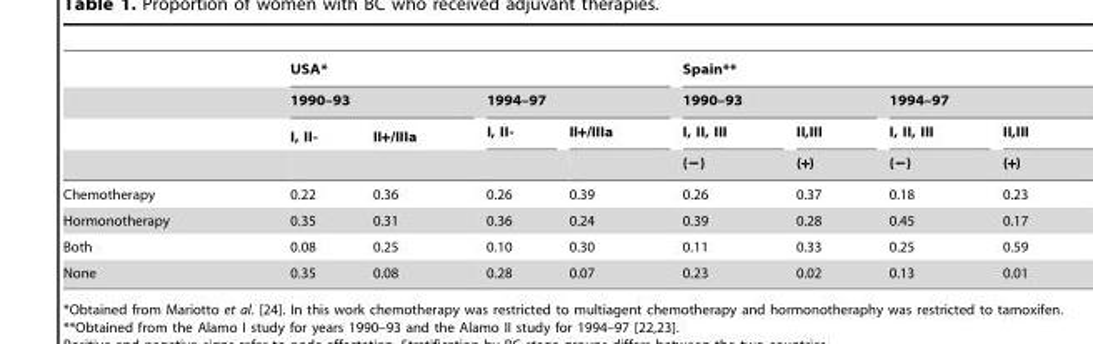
<table><thead><tr><td rowspan="4"></td><td colspan="4">USA*</td><td colspan="4">Spain**</td></tr><tr><td colspan="2">1990–93</td><td colspan="2">1994–97</td><td colspan="2">1990–93</td><td colspan="2">1994–97</td></tr><tr><td rowspan="2">I, II-</td><td rowspan="2">II+/IIIa</td><td rowspan="2">I, II-</td><td rowspan="2">II+/IIIa</td><td rowspan="2">I, II, III (−)</td><td rowspan="2">II,III (+)</td><td rowspan="2">I, II, III (−)</td><td rowspan="2">II,III (+)</td></tr><tr></tr></thead><tbody><tr><td>Chemotherapy</td><td>0.22</td><td>0.36</td><td>0.26</td><td>0.39</td><td>0.26</td><td>0.37</td><td>0.18</td><td>0.23</td></tr><tr><td>Hormonotherapy</td><td>0.35</td><td>0.31</td><td>0.36</td><td>0.24</td><td>0.39</td><td>0.28</td><td>0.45</td><td>0.17</td></tr><tr><td>Both</td><td>0.08</td><td>0.25</td><td>0.10</td><td>0.30</td><td>0.11</td><td>0.33</td><td>0.25</td><td>0.59</td></tr><tr><td>None</td><td>0.35</td><td>0.08</td><td>0.28</td><td>0.07</td><td>0.23</td><td>0.02</td><td>0.13</td><td>0.01</td></tr></tbody></table>